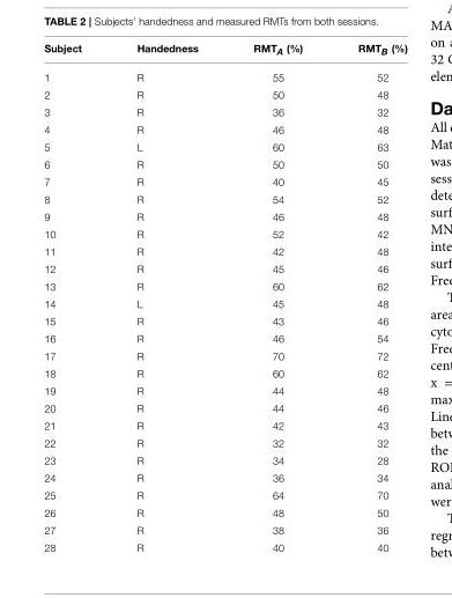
<table><thead><tr><td>Subject</td><td>Handedness</td><td>RMT<sub>A</sub> (%)</td><td>RMT<sub>B</sub> (%)</td></tr></thead><tbody><tr><td>1</td><td>R</td><td>55</td><td>52</td></tr><tr><td>2</td><td>R</td><td>50</td><td>48</td></tr><tr><td>3</td><td>R</td><td>36</td><td>32</td></tr><tr><td>4</td><td>R</td><td>46</td><td>48</td></tr><tr><td>5</td><td>L</td><td>60</td><td>63</td></tr><tr><td>6</td><td>R</td><td>50</td><td>50</td></tr><tr><td>7</td><td>R</td><td>40</td><td>45</td></tr><tr><td>8</td><td>R</td><td>54</td><td>52</td></tr><tr><td>9</td><td>R</td><td>46</td><td>48</td></tr><tr><td>10</td><td>R</td><td>52</td><td>42</td></tr><tr><td>11</td><td>R</td><td>42</td><td>48</td></tr><tr><td>12</td><td>R</td><td>45</td><td>46</td></tr><tr><td>13</td><td>R</td><td>60</td><td>62</td></tr><tr><td>14</td><td>L</td><td>45</td><td>48</td></tr><tr><td>15</td><td>R</td><td>43</td><td>46</td></tr><tr><td>16</td><td>R</td><td>46</td><td>54</td></tr><tr><td>17</td><td>R</td><td>70</td><td>72</td></tr><tr><td>18</td><td>R</td><td>60</td><td>62</td></tr><tr><td>19</td><td>R</td><td>44</td><td>48</td></tr><tr><td>20</td><td>R</td><td>44</td><td>46</td></tr><tr><td>21</td><td>R</td><td>42</td><td>43</td></tr><tr><td>22</td><td>R</td><td>32</td><td>32</td></tr><tr><td>23</td><td>R</td><td>34</td><td>28</td></tr><tr><td>24</td><td>R</td><td>36</td><td>34</td></tr><tr><td>25</td><td>R</td><td>64</td><td>70</td></tr><tr><td>26</td><td>R</td><td>48</td><td>50</td></tr><tr><td>27</td><td>R</td><td>38</td><td>36</td></tr><tr><td>28</td><td>R</td><td>40</td><td>40</td></tr></tbody></table>